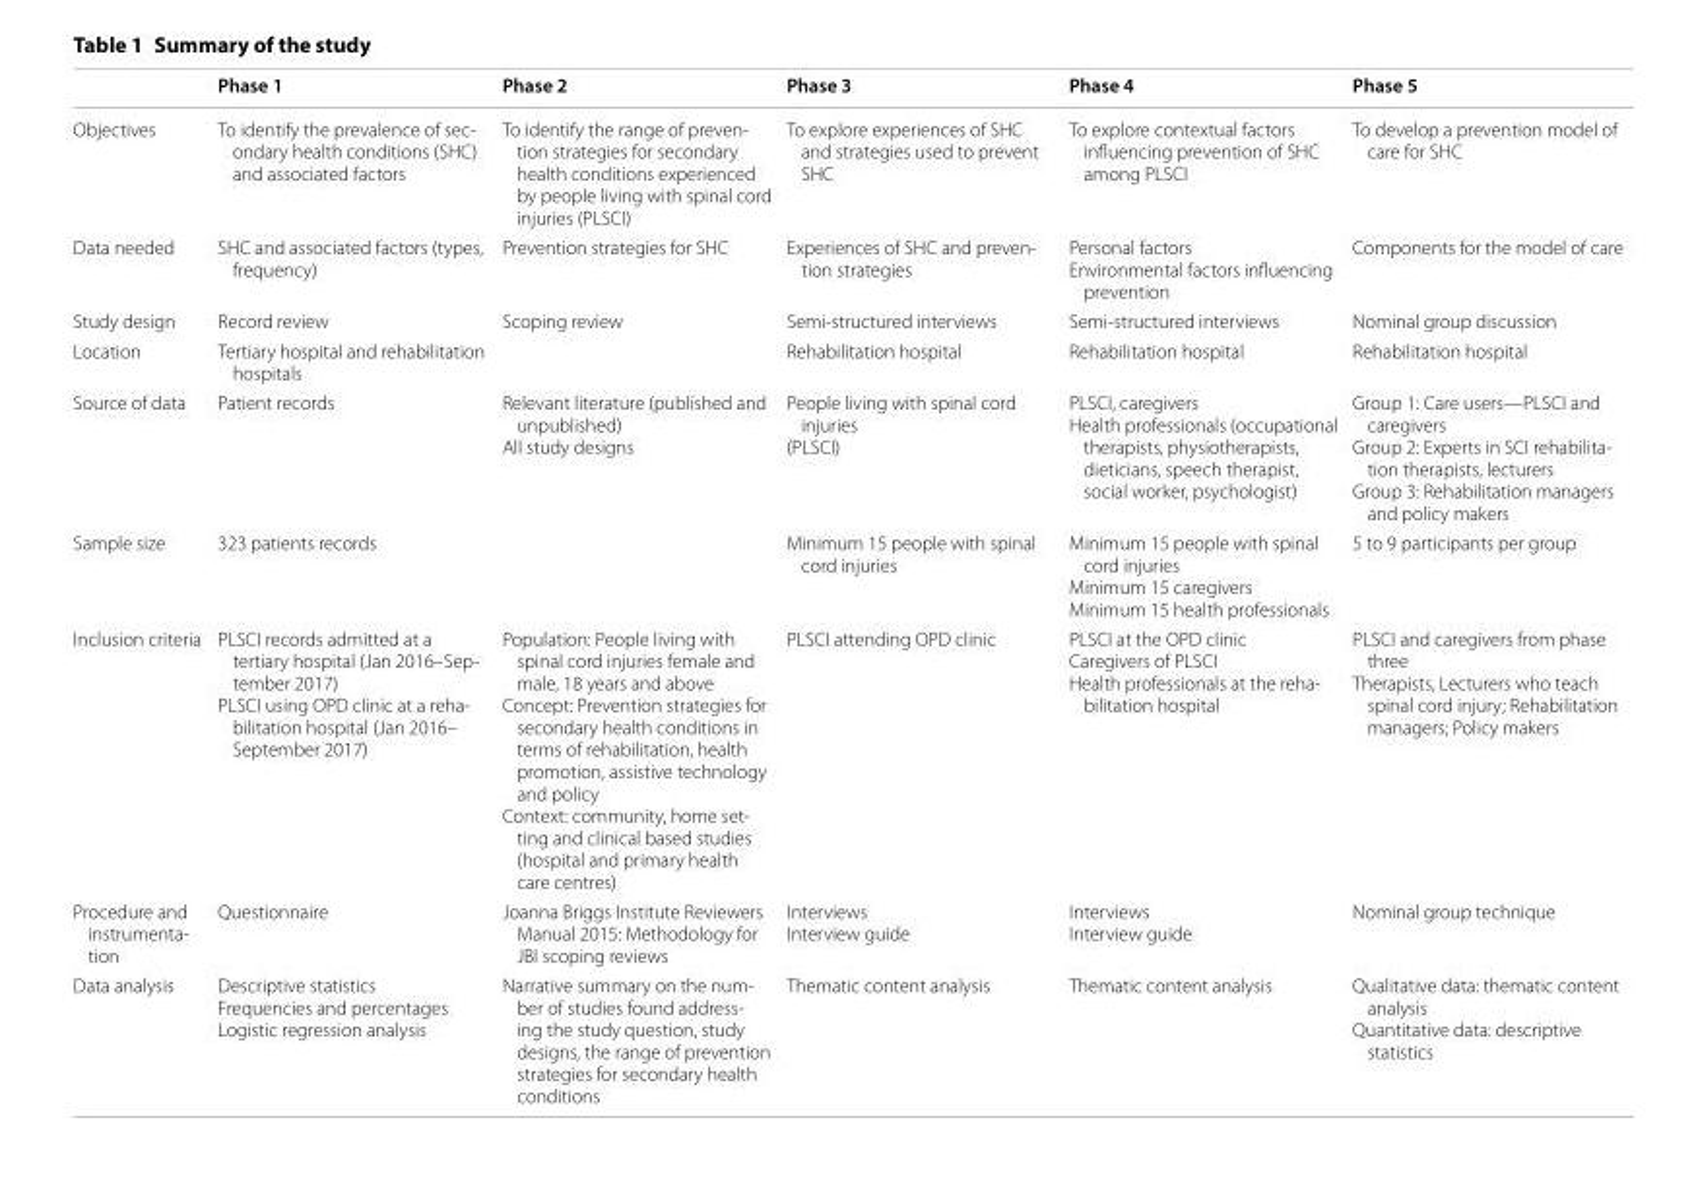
<table><thead><tr><td></td><td>Phase 1</td><td>Phase 2</td><td>Phase 3</td><td>Phase 4</td><td>Phase 5</td></tr></thead><tbody><tr><td>Objectives</td><td>To identify the prevalence of sec- ondary health conditions (SHC) and associated factors</td><td>To identify the range of preven- tion strategies for secondary health conditions experienced by people living with spinal cord injuries (PLSCI)</td><td>To explore experiences of SHC and strategies used to prevent SHC</td><td>To explore contextual factors influencing prevention of SHC among PLSCI</td><td>To develop a prevention model of care for SHC</td></tr><tr><td>Data needed</td><td>SHC and associated factors (types, frequency)</td><td>Prevention strategies for SHC</td><td>Experiences of SHC and preven- tion strategies</td><td>Personal factors Environmental factors influencing prevention</td><td>Components for the model of care</td></tr><tr><td>Study design</td><td>Record review</td><td>Scoping review</td><td>Semi-structured interviews</td><td>Semi-structured interviews</td><td>Nominal group discussion</td></tr><tr><td>Location</td><td>Tertiary hospital and rehabilitation hospitals</td><td></td><td>Rehabilitation hospital</td><td>Rehabilitation hospital</td><td>Rehabilitation hospital</td></tr><tr><td>Source of data</td><td>Patient records</td><td>Relevant literature (published and unpublished) All study designs</td><td>People living with spinal cord injuries (PLSCI)</td><td>PLSCI, caregivers Health professionals (occupational therapists, physiotherapists, dieticians, speech therapist, social worker, psychologist)</td><td>Group 1: Care users—PLSCI and caregivers Group 2: Experts in SCI rehabilita- tion therapists, lecturers Group 3: Rehabilitation managers and policy makers</td></tr><tr><td>Sample size</td><td>323 patients records</td><td></td><td>Minimum 15 people with spinal cord injuries</td><td>Minimum 15 people with spinal cord injuries Minimum 15 caregivers Minimum 15 health professionals</td><td>5 to 9 participants per group</td></tr><tr><td>Inclusion criteria</td><td>PLSCI records admitted at a tertiary hospital (Jan 2016–Sep- tember 2017) PLSCI using OPD clinic at a reha- bilitation hospital (Jan 2016– September 2017)</td><td>Population: People living with spinal cord injuries female and male, 18 years and above Concept: Prevention strategies for secondary health conditions in terms of rehabilitation, health promotion, assistive technology and policy Context: community, home set- ting and clinical based studies (hospital and primary health care centres)</td><td>PLSCI attending OPD clinic</td><td>PLSCI at the OPD clinic Caregivers of PLSCI Health professionals at the reha- bilitation hospital</td><td>PLSCI and caregivers from phase three Therapists, Lecturers who teach spinal cord injury; Rehabilitation managers; Policy makers</td></tr><tr><td>Procedure and instrumenta- tion</td><td>Questionnaire</td><td>Joanna Briggs Institute Reviewers Manual 2015: Methodology for JBI scoping reviews</td><td>Interviews Interview guide</td><td>Interviews Interview guide</td><td>Nominal group technique</td></tr><tr><td>Data analysis</td><td>Descriptive statistics Frequencies and percentages Logistic regression analysis</td><td>Narrative summary on the num- ber of studies found address- ing the study question, study designs, the range of prevention strategies for secondary health conditions</td><td>Thematic content analysis</td><td>Thematic content analysis</td><td>Qualitative data: thematic content analysis Quantitative data: descriptive statistics</td></tr></tbody></table>